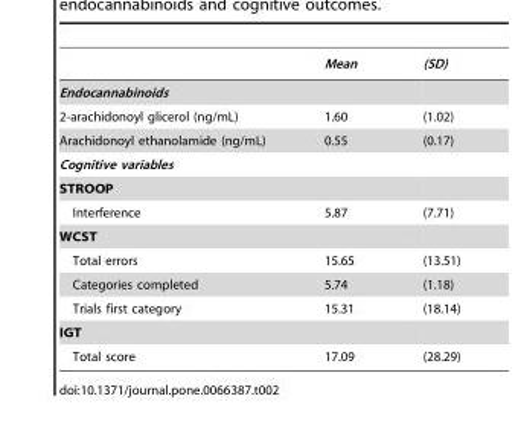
<table><thead><tr><td></td><td>Mean</td><td>(SD)</td></tr></thead><tbody><tr><td colspan="3">Endocannabinoids</td></tr><tr><td>2-arachidonoyl glicerol (ng/mL)</td><td>1.60</td><td>(1.02)</td></tr><tr><td>Arachidonoyl ethanolamide (ng/mL)</td><td>0.55</td><td>(0.17)</td></tr><tr><td colspan="3">Cognitive variables</td></tr><tr><td colspan="3">STROOP</td></tr><tr><td>Interference</td><td>5.87</td><td>(7.71)</td></tr><tr><td colspan="3">WCST</td></tr><tr><td>Total errors</td><td>15.65</td><td>(13.51)</td></tr><tr><td>Categories completed</td><td>5.74</td><td>(1.18)</td></tr><tr><td>Trials first category</td><td>15.31</td><td>(18.14)</td></tr><tr><td colspan="3">IGT</td></tr><tr><td>Total score</td><td>17.09</td><td>(28.29)</td></tr></tbody></table>